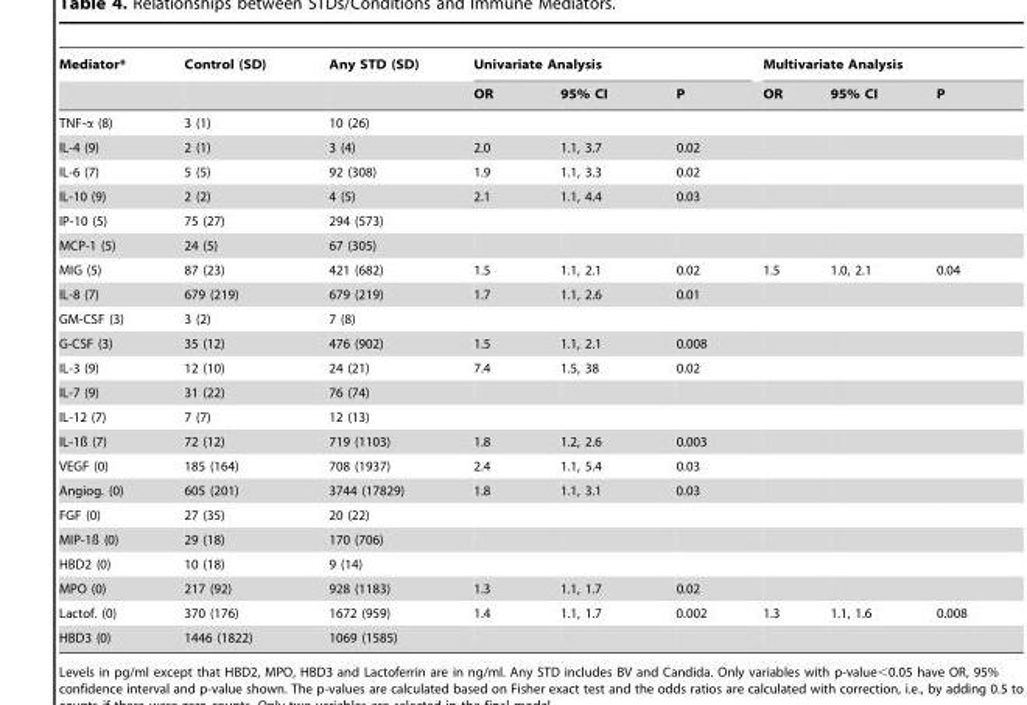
<table><thead><tr><td rowspan="2">Mediator*</td><td rowspan="2">Control (SD)</td><td rowspan="2">Any STD (SD)</td><td colspan="3">Univariate Analysis</td><td colspan="3">Multivariate Analysis</td></tr><tr><td>OR</td><td>95% CI</td><td>P</td><td>OR</td><td>95% CI</td><td>P</td></tr></thead><tbody><tr><td>TNF-α (8)</td><td>3 (1)</td><td>10 (26)</td><td></td><td></td><td></td><td></td><td></td><td></td></tr><tr><td>IL-4 (9)</td><td>2 (1)</td><td>3 (4)</td><td>2.0</td><td>1.1, 3.7</td><td>0.02</td><td></td><td></td><td></td></tr><tr><td>IL-6 (7)</td><td>5 (5)</td><td>92 (308)</td><td>1.9</td><td>1.1, 3.3</td><td>0.02</td><td></td><td></td><td></td></tr><tr><td>IL-10 (9)</td><td>2 (2)</td><td>4 (5)</td><td>2.1</td><td>1.1, 4.4</td><td>0.03</td><td></td><td></td><td></td></tr><tr><td>IP-10 (5)</td><td>75 (27)</td><td>294 (573)</td><td></td><td></td><td></td><td></td><td></td><td></td></tr><tr><td>MCP-1 (5)</td><td>24 (5)</td><td>67 (305)</td><td></td><td></td><td></td><td></td><td></td><td></td></tr><tr><td>MIG (5)</td><td>87 (23)</td><td>421 (682)</td><td>1.5</td><td>1.1, 2.1</td><td>0.02</td><td>1.5</td><td>1.0, 2.1</td><td>0.04</td></tr><tr><td>IL-8 (7)</td><td>679 (219)</td><td>679 (219)</td><td>1.7</td><td>1.1, 2.6</td><td>0.01</td><td></td><td></td><td></td></tr><tr><td>GM-CSF (3)</td><td>3 (2)</td><td>7 (8)</td><td></td><td></td><td></td><td></td><td></td><td></td></tr><tr><td>G-CSF (3)</td><td>35 (12)</td><td>476 (902)</td><td>1.5</td><td>1.1, 2.1</td><td>0.008</td><td></td><td></td><td></td></tr><tr><td>IL-3 (9)</td><td>12 (10)</td><td>24 (21)</td><td>7.4</td><td>1.5, 38</td><td>0.02</td><td></td><td></td><td></td></tr><tr><td>IL-7 (9)</td><td>31 (22)</td><td>76 (74)</td><td></td><td></td><td></td><td></td><td></td><td></td></tr><tr><td>IL-12 (7)</td><td>7 (7)</td><td>12 (13)</td><td></td><td></td><td></td><td></td><td></td><td></td></tr><tr><td>IL-1ß (7)</td><td>72 (12)</td><td>719 (1103)</td><td>1.8</td><td>1.2, 2.6</td><td>0.003</td><td></td><td></td><td></td></tr><tr><td>VEGF (0)</td><td>185 (164)</td><td>708 (1937)</td><td>2.4</td><td>1.1, 5.4</td><td>0.03</td><td></td><td></td><td></td></tr><tr><td>Angiog. (0)</td><td>605 (201)</td><td>3744 (17829)</td><td>1.8</td><td>1.1, 3.1</td><td>0.03</td><td></td><td></td><td></td></tr><tr><td>FGF (0)</td><td>27 (35)</td><td>20 (22)</td><td></td><td></td><td></td><td></td><td></td><td></td></tr><tr><td>MIP-1ß (0)</td><td>29 (18)</td><td>170 (706)</td><td></td><td></td><td></td><td></td><td></td><td></td></tr><tr><td>HBD2 (0)</td><td>10 (18)</td><td>9 (14)</td><td></td><td></td><td></td><td></td><td></td><td></td></tr><tr><td>MPO (0)</td><td>217 (92)</td><td>928 (1183)</td><td>1.3</td><td>1.1, 1.7</td><td>0.02</td><td></td><td></td><td></td></tr><tr><td>Lactof. (0)</td><td>370 (176)</td><td>1672 (959)</td><td>1.4</td><td>1.1, 1.7</td><td>0.002</td><td>1.3</td><td>1.1, 1.6</td><td>0.008</td></tr><tr><td>HBD3 (0)</td><td>1446 (1822)</td><td>1069 (1585)</td><td></td><td></td><td></td><td></td><td></td><td></td></tr></tbody></table>